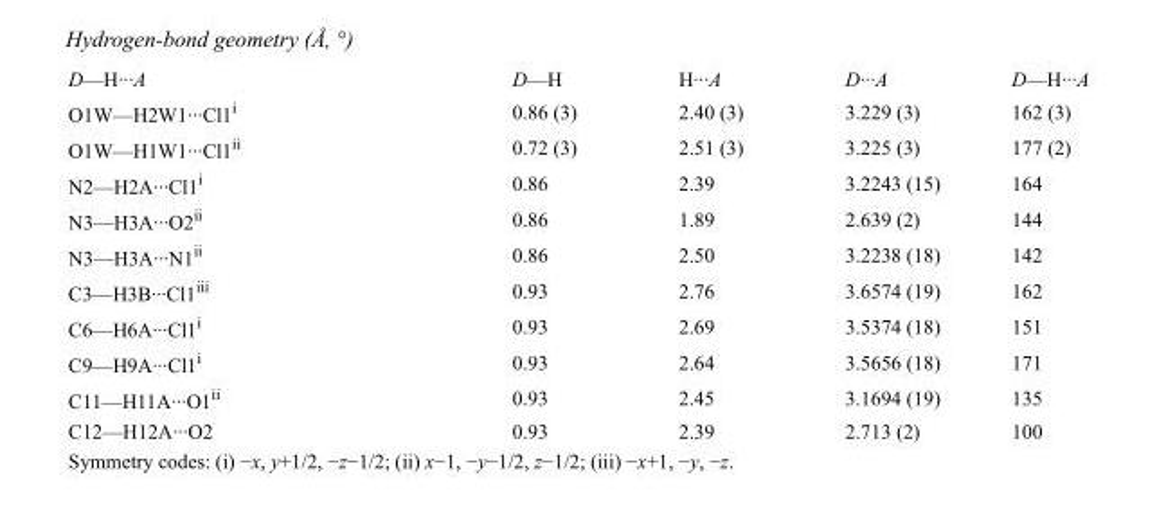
<table><tbody><tr><td>D—H···A</td><td>D—H</td><td>H···A</td><td>D···A</td><td>D—H···A</td></tr><tr><td>O1W—H2W1···Cl1<sup>i</sup></td><td>0.86 (3)</td><td>2.40 (3)</td><td>3.229 (3)</td><td>162 (3)</td></tr><tr><td>O1W—H1W1···Cl1<sup>ii</sup></td><td>0.72 (3)</td><td>2.51 (3)</td><td>3.225 (3)</td><td>177 (2)</td></tr><tr><td>N2—H2A···Cl1<sup>i</sup></td><td>0.86</td><td>2.39</td><td>3.2243 (15)</td><td>164</td></tr><tr><td>N3—H3A···O2<sup>ii</sup></td><td>0.86</td><td>1.89</td><td>2.639 (2)</td><td>144</td></tr><tr><td>N3—H3A···N1<sup>ii</sup></td><td>0.86</td><td>2.50</td><td>3.2238 (18)</td><td>142</td></tr><tr><td>C3—H3B···Cl1<sup>iii</sup></td><td>0.93</td><td>2.76</td><td>3.6574 (19)</td><td>162</td></tr><tr><td>C6—H6A···Cl1<sup>i</sup></td><td>0.93</td><td>2.69</td><td>3.5374 (18)</td><td>151</td></tr><tr><td>C9—H9A···Cl1<sup>i</sup></td><td>0.93</td><td>2.64</td><td>3.5656 (18)</td><td>171</td></tr><tr><td>C11—H11A···O1<sup>ii</sup></td><td>0.93</td><td>2.45</td><td>3.1694 (19)</td><td>135</td></tr><tr><td>C12—H12A···O2</td><td>0.93</td><td>2.39</td><td>2.713 (2)</td><td>100</td></tr></tbody></table>